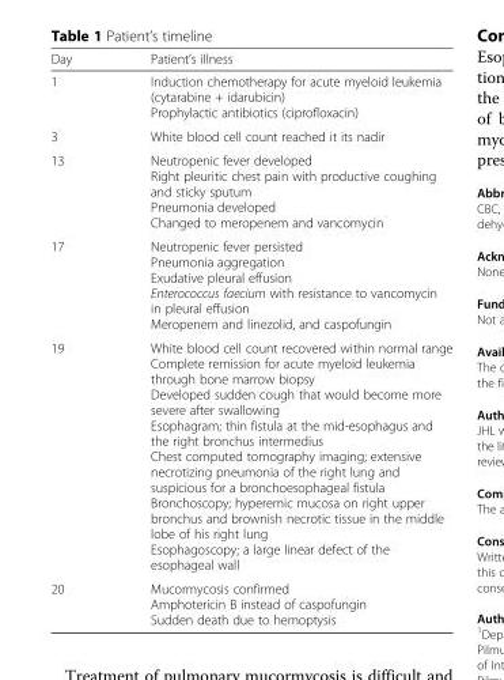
<table><thead><tr><td>Day</td><td>Patient’s illness</td></tr></thead><tbody><tr><td>1</td><td>Induction chemotherapy for acute myeloid leukemia (cytarabine + idarubicin) Prophylactic antibiotics (ciprofloxacin)</td></tr><tr><td>3</td><td>White blood cell count reached it its nadir</td></tr><tr><td>13</td><td>Neutropenic fever developed Right pleuritic chest pain with productive coughing and sticky sputum Pneumonia developed Changed to meropenem and vancomycin</td></tr><tr><td>17</td><td>Neutropenic fever persisted Pneumonia aggregation Exudative pleural effusion Enterococcus faecium with resistance to vancomycin in pleural effusion Meropenem and linezolid, and caspofungin</td></tr><tr><td>19</td><td>White blood cell count recovered within normal range Complete remission for acute myeloid leukemia through bone marrow biopsy Developed sudden cough that would become more severe after swallowing Esophagram; thin fistula at the mid-esophagus and the right bronchus intermedius Chest computed tomography imaging; extensive necrotizing pneumonia of the right lung and suspicious for a bronchoesophageal fistula Bronchoscopy; hyperemic mucosa on right upper bronchus and brownish necrotic tissue in the middle lobe of his right lung Esophagoscopy; a large linear defect of the esophageal wall</td></tr><tr><td>20</td><td>Mucormycosis confirmed Amphotericin B instead of caspofungin Sudden death due to hemoptysis</td></tr></tbody></table>